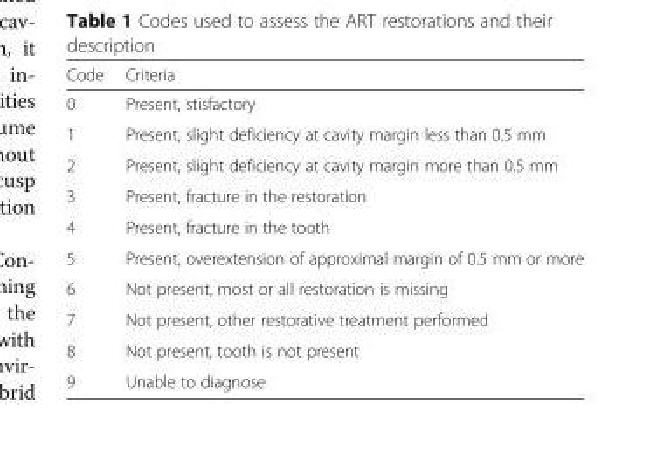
<table><thead><tr><td>Code</td><td>Criteria</td></tr></thead><tbody><tr><td>0</td><td>Present, stisfactory</td></tr><tr><td>1</td><td>Present, slight deficiency at cavity margin less than 0.5 mm</td></tr><tr><td>2</td><td>Present, slight deficiency at cavity margin more than 0.5 mm</td></tr><tr><td>3</td><td>Present, fracture in the restoration</td></tr><tr><td>4</td><td>Present, fracture in the tooth</td></tr><tr><td>5</td><td>Present, overextension of approximal margin of 0.5 mm or more</td></tr><tr><td>6</td><td>Not present, most or all restoration is missing</td></tr><tr><td>7</td><td>Not present, other restorative treatment performed</td></tr><tr><td>8</td><td>Not present, tooth is not present</td></tr><tr><td>9</td><td>Unable to diagnose</td></tr></tbody></table>